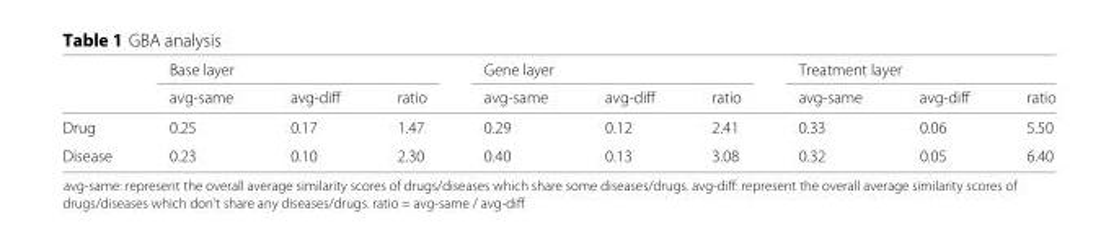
<table><thead><tr><td rowspan="2"></td><td colspan="3">Base layer</td><td colspan="3">Gene layer</td><td colspan="3">Treatment layer</td></tr><tr><td>avg-same</td><td>avg-diff</td><td>ratio</td><td>avg-same</td><td>avg-diff</td><td>ratio</td><td>avg-same</td><td>avg-diff</td><td>ratio</td></tr></thead><tbody><tr><td>Drug</td><td>0.25</td><td>0.17</td><td>1.47</td><td>0.29</td><td>0.12</td><td>2.41</td><td>0.33</td><td>0.06</td><td>5.50</td></tr><tr><td>Disease</td><td>0.23</td><td>0.10</td><td>2.30</td><td>0.40</td><td>0.13</td><td>3.08</td><td>0.32</td><td>0.05</td><td>6.40</td></tr></tbody></table>